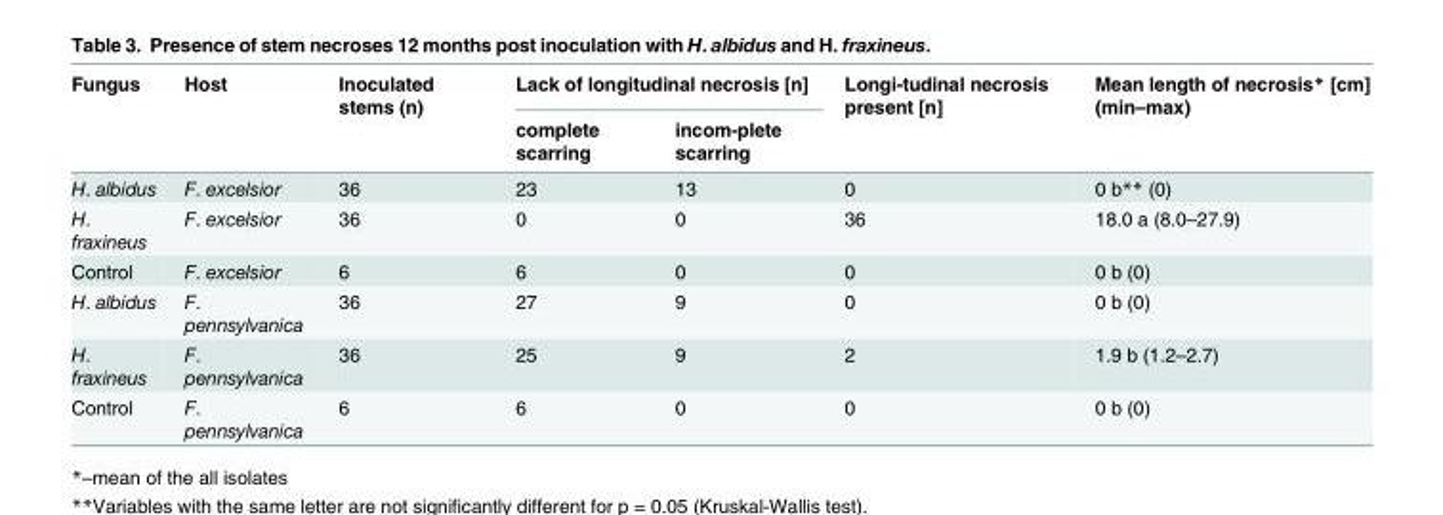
<table><thead><tr><td rowspan="2">Fungus</td><td rowspan="2">Host</td><td rowspan="2">Inoculated stems (n)</td><td colspan="2">Lack of longitudinal necrosis [n]</td><td rowspan="2">Longi-tudinal necrosis present [n]</td><td rowspan="2">Mean length of necrosis* [cm] (min–max)</td></tr><tr><td>complete scarring</td><td>incom-plete scarring</td></tr></thead><tbody><tr><td>H. albidus</td><td>F. excelsior</td><td>36</td><td>23</td><td>13</td><td>0</td><td>0 b** (0)</td></tr><tr><td>H. fraxineus</td><td>F. excelsior</td><td>36</td><td>0</td><td>0</td><td>36</td><td>18.0 a (8.0–27.9)</td></tr><tr><td>Control</td><td>F. excelsior</td><td>6</td><td>6</td><td>0</td><td>0</td><td>0 b (0)</td></tr><tr><td>H. albidus</td><td>F. pennsylvanica</td><td>36</td><td>27</td><td>9</td><td>0</td><td>0 b (0)</td></tr><tr><td>H. fraxineus</td><td>F. pennsylvanica</td><td>36</td><td>25</td><td>9</td><td>2</td><td>1.9 b (1.2–2.7)</td></tr><tr><td>Control</td><td>F. pennsylvanica</td><td>6</td><td>6</td><td>0</td><td>0</td><td>0 b (0)</td></tr></tbody></table>